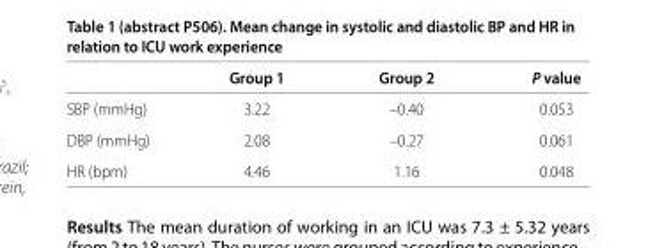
<table><thead><tr><td></td><td>Group 1</td><td>Group 2</td><td>P value</td></tr></thead><tbody><tr><td>SBP (mmHg)</td><td>3.22</td><td>–0.40</td><td>0.053</td></tr><tr><td>DBP (mmHg)</td><td>2.08</td><td>–0.27</td><td>0.061</td></tr><tr><td>HR (bpm)</td><td>4.46</td><td>1.16</td><td>0.048</td></tr></tbody></table>